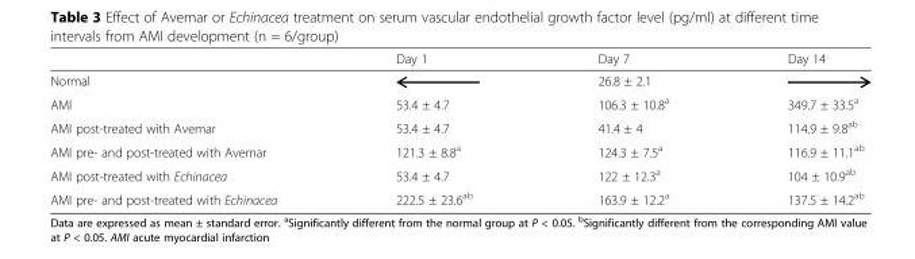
<table><thead><tr><td></td><td>Day 1</td><td>Day 7</td><td>Day 14</td></tr></thead><tbody><tr><td>Normal</td><td></td><td>26.8 ± 2.1</td><td></td></tr><tr><td>AMI</td><td>53.4 ± 4.7</td><td>106.3 ± 10.8<sup>a</sup></td><td>349.7 ± 33.5<sup>a</sup></td></tr><tr><td>AMI post-treated with Avemar</td><td>53.4 ± 4.7</td><td>41.4 ± 4</td><td>114.9 ± 9.8<sup>ab</sup></td></tr><tr><td>AMI pre- and post-treated with Avemar</td><td>121.3 ± 8.8<sup>a</sup></td><td>124.3 ± 7.5<sup>a</sup></td><td>116.9 ± 11.1<sup>ab</sup></td></tr><tr><td>AMI post-treated with Echinacea</td><td>53.4 ± 4.7</td><td>122 ± 12.3<sup>a</sup></td><td>104 ± 10.9<sup>ab</sup></td></tr><tr><td>AMI pre- and post-treated with Echinacea</td><td>222.5 ± 23.6<sup>ab</sup></td><td>163.9 ± 12.2<sup>a</sup></td><td>137.5 ± 14.2<sup>ab</sup></td></tr></tbody></table>